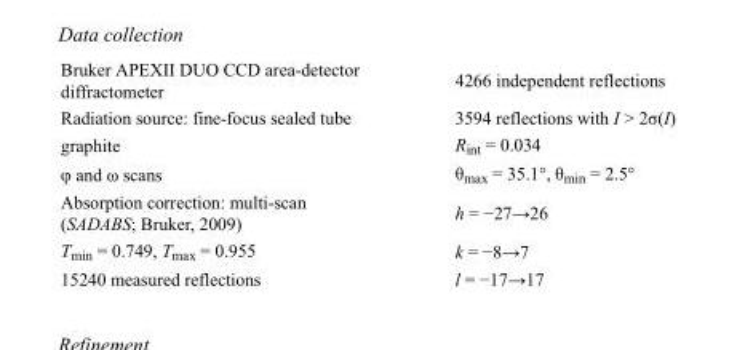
<table><tbody><tr><td>Bruker APEXII DUO CCD area-detector diffractometer</td><td>4266 independent reflections</td></tr><tr><td>Radiation source: fine-focus sealed tube</td><td>3594 reflections with I &gt; 2σ(I)</td></tr><tr><td>graphite</td><td>R<sub>int</sub> = 0.034</td></tr><tr><td>φ and ω scans</td><td>θ<sub>max</sub> = 35.1°, θ<sub>min</sub> = 2.5°</td></tr><tr><td>Absorption correction: multi-scan (SADABS; Bruker, 2009)</td><td>h = −27→26</td></tr><tr><td>T<sub>min</sub> = 0.749, T<sub>max</sub> = 0.955</td><td>k = −8→7</td></tr><tr><td>15240 measured reflections</td><td>l = −17→17</td></tr></tbody></table>